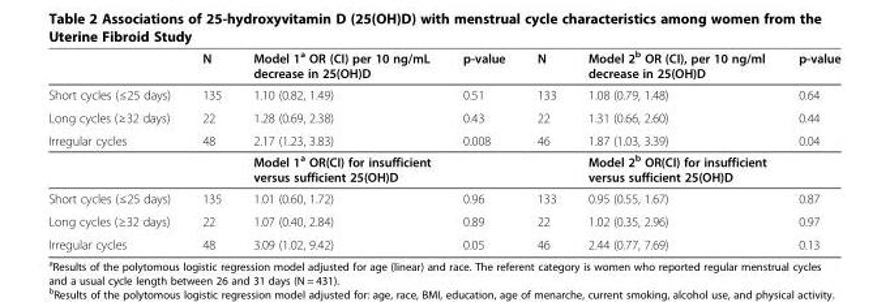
<table><thead><tr><td></td><td>N</td><td>Model 1<sup>a</sup> OR (CI) per 10 ng/mL decrease in 25(OH)D</td><td>p-value</td><td>N</td><td>Model 2<sup>b</sup> OR (CI), per 10 ng/ml decrease in 25(OH)D</td><td>p-value</td></tr></thead><tbody><tr><td>Short cycles (≤25 days)</td><td>135</td><td>1.10 (0.82, 1.49)</td><td>0.51</td><td>133</td><td>1.08 (0.79, 1.48)</td><td>0.64</td></tr><tr><td>Long cycles (≥32 days)</td><td>22</td><td>1.28 (0.69, 2.38)</td><td>0.43</td><td>22</td><td>1.31 (0.66, 2.60)</td><td>0.44</td></tr><tr><td rowspan="2">Irregular cycles</td><td>48</td><td>2.17 (1.23, 3.83)</td><td>0.008</td><td>46</td><td>1.87 (1.03, 3.39)</td><td>0.04</td></tr><tr><td></td><td>Model 1<sup>a</sup> OR(CI) for insufficient versus sufficient 25(OH)D</td><td></td><td></td><td>Model 2<sup>b</sup> OR(CI) for insufficient versus sufficient 25(OH)D</td><td></td></tr><tr><td>Short cycles (≤25 days)</td><td>135</td><td>1.01 (0.60, 1.72)</td><td>0.96</td><td>133</td><td>0.95 (0.55, 1.67)</td><td>0.87</td></tr><tr><td>Long cycles (≥32 days)</td><td>22</td><td>1.07 (0.40, 2.84)</td><td>0.89</td><td>22</td><td>1.02 (0.35, 2.96)</td><td>0.97</td></tr><tr><td>Irregular cycles</td><td>48</td><td>3.09 (1.02, 9.42)</td><td>0.05</td><td>46</td><td>2.44 (0.77, 7.69)</td><td>0.13</td></tr></tbody></table>